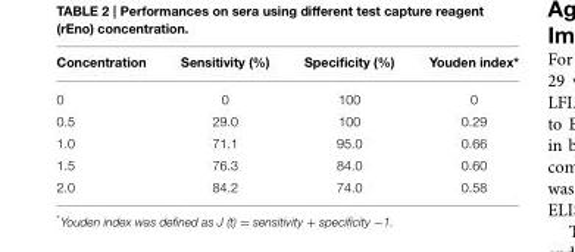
<table><thead><tr><td>Concentration</td><td>Sensitivity (%)</td><td>Specificity (%)</td><td>Youden index*</td></tr></thead><tbody><tr><td>0</td><td>0</td><td>100</td><td>0</td></tr><tr><td>0.5</td><td>29.0</td><td>100</td><td>0.29</td></tr><tr><td>1.0</td><td>71.1</td><td>95.0</td><td>0.66</td></tr><tr><td>1.5</td><td>76.3</td><td>84.0</td><td>0.60</td></tr><tr><td>2.0</td><td>84.2</td><td>74.0</td><td>0.58</td></tr></tbody></table>